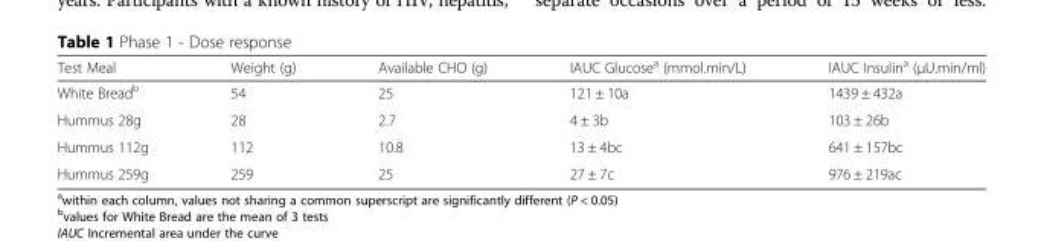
<table><thead><tr><td>Test Meal</td><td>Weight (g)</td><td>Available CHO (g)</td><td>IAUC Glucose<sup>a</sup> (mmol.min/L)</td><td>IAUC Insulin<sup>a</sup> (μU.min/ml)</td></tr></thead><tbody><tr><td>White Bread<sup>b</sup></td><td>54</td><td>25</td><td>121 ± 10a</td><td>1439 ± 432a</td></tr><tr><td>Hummus 28g</td><td>28</td><td>2.7</td><td>4 ± 3b</td><td>103 ± 26b</td></tr><tr><td>Hummus 112g</td><td>112</td><td>10.8</td><td>13 ± 4bc</td><td>641 ± 157bc</td></tr><tr><td>Hummus 259g</td><td>259</td><td>25</td><td>27 ± 7c</td><td>976 ± 219ac</td></tr></tbody></table>